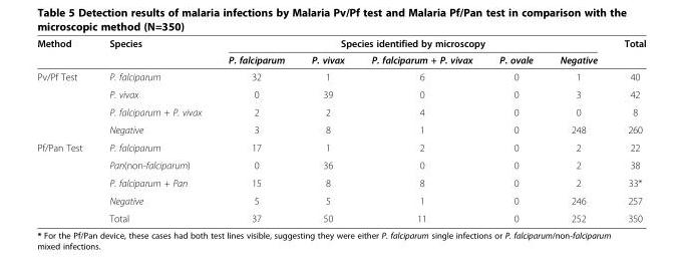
<table><thead><tr><td rowspan="2">Method</td><td rowspan="2">Species</td><td colspan="5">Species identified by microscopy</td><td rowspan="2">Total</td></tr><tr><td>P. falciparum</td><td>P. vivax</td><td>P. falciparum + P. vivax</td><td>P. ovale</td><td>Negative</td></tr></thead><tbody><tr><td rowspan="4">Pv/Pf Test</td><td>P. falciparum</td><td>32</td><td>1</td><td>6</td><td>0</td><td>1</td><td>40</td></tr><tr><td>P. vivax</td><td>0</td><td>39</td><td>0</td><td>0</td><td>3</td><td>42</td></tr><tr><td>P. falciparum + P. vivax</td><td>2</td><td>2</td><td>4</td><td>0</td><td>0</td><td>8</td></tr><tr><td>Negative</td><td>3</td><td>8</td><td>1</td><td>0</td><td>248</td><td>260</td></tr><tr><td rowspan="5">Pf/Pan Test</td><td>P. falciparum</td><td>17</td><td>1</td><td>2</td><td>0</td><td>2</td><td>22</td></tr><tr><td>Pan(non-falciparum)</td><td>0</td><td>36</td><td>0</td><td>0</td><td>2</td><td>38</td></tr><tr><td>P. falciparum + Pan</td><td>15</td><td>8</td><td>8</td><td>0</td><td>2</td><td>33*</td></tr><tr><td>Negative</td><td>5</td><td>5</td><td>1</td><td>0</td><td>246</td><td>257</td></tr><tr><td>Total</td><td>37</td><td>50</td><td>11</td><td>0</td><td>252</td><td>350</td></tr></tbody></table>